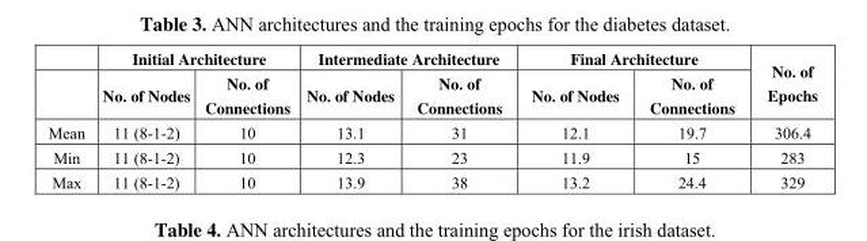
<table><thead><tr><td rowspan="2"></td><td colspan="2">Initial Architecture</td><td colspan="2">Intermediate Architecture</td><td colspan="2">Final Architecture</td><td rowspan="2">No. of Epochs</td></tr><tr><td>No. of Nodes</td><td>No. of Connections</td><td>No. of Nodes</td><td>No. of Connections</td><td>No. of Nodes</td><td>No. of Connections</td></tr></thead><tbody><tr><td>Mean</td><td>11 (8-1-2)</td><td>10</td><td>13.1</td><td>31</td><td>12.1</td><td>19.7</td><td>306.4</td></tr><tr><td>Min</td><td>11 (8-1-2)</td><td>10</td><td>12.3</td><td>23</td><td>11.9</td><td>15</td><td>283</td></tr><tr><td>Max</td><td>11 (8-1-2)</td><td>10</td><td>13.9</td><td>38</td><td>13.2</td><td>24.4</td><td>329</td></tr></tbody></table>